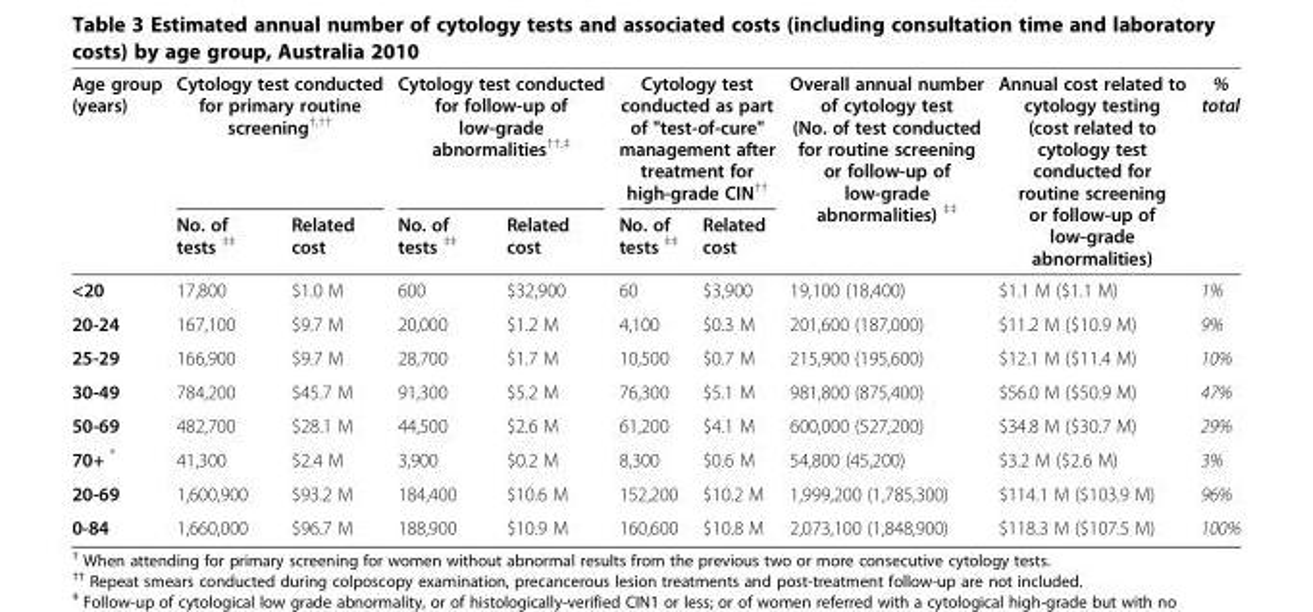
<table><thead><tr><td rowspan="2">Age group (years)</td><td colspan="2">Cytology test conducted for primary routine screening<sup>†,††</sup></td><td colspan="2">Cytology test conducted for follow-up of low-grade abnormalities<sup>††,‡</sup></td><td colspan="2">Cytology test conducted as part of &quot;test-of-cure&quot; management after treatment for high-grade CIN<sup>††</sup></td><td rowspan="2">Overall annual number of cytology test (No. of test conducted for routine screening or follow-up of low-grade abnormalities) <sup>‡‡</sup></td><td rowspan="2">Annual cost related to cytology testing (cost related to cytology test conducted for routine screening or follow-up of low-grade abnormalities)</td><td rowspan="2">% total</td></tr><tr><td>No. of tests <sup>‡‡</sup></td><td>Related cost</td><td>No. of tests <sup>‡‡</sup></td><td>Related cost</td><td>No. of tests <sup>‡‡</sup></td><td>Related cost</td></tr></thead><tbody><tr><td>&lt;20</td><td>17,800</td><td>$1.0 M</td><td>600</td><td>$32,900</td><td>60</td><td>$3,900</td><td>19,100 (18,400)</td><td>$1.1 M ($1.1 M)</td><td>1%</td></tr><tr><td>20-24</td><td>167,100</td><td>$9.7 M</td><td>20,000</td><td>$1.2 M</td><td>4,100</td><td>$0.3 M</td><td>201,600 (187,000)</td><td>$11.2 M ($10.9 M)</td><td>9%</td></tr><tr><td>25-29</td><td>166,900</td><td>$9.7 M</td><td>28,700</td><td>$1.7 M</td><td>10,500</td><td>$0.7 M</td><td>215,900 (195,600)</td><td>$12.1 M ($11.4 M)</td><td>10%</td></tr><tr><td>30-49</td><td>784,200</td><td>$45.7 M</td><td>91,300</td><td>$5.2 M</td><td>76,300</td><td>$5.1 M</td><td>981,800 (875,400)</td><td>$56.0 M ($50.9 M)</td><td>47%</td></tr><tr><td>50-69</td><td>482,700</td><td>$28.1 M</td><td>44,500</td><td>$2.6 M</td><td>61,200</td><td>$4.1 M</td><td>600,000 (527,200)</td><td>$34.8 M ($30.7 M)</td><td>29%</td></tr><tr><td>70+ *</td><td>41,300</td><td>$2.4 M</td><td>3,900</td><td>$0.2 M</td><td>8,300</td><td>$0.6 M</td><td>54,800 (45,200)</td><td>$3.2 M ($2.6 M)</td><td>3%</td></tr><tr><td>20-69</td><td>1,600,900</td><td>$93.2 M</td><td>184,400</td><td>$10.6 M</td><td>152,200</td><td>$10.2 M</td><td>1,999,200 (1,785,300)</td><td>$114.1 M ($103.9 M)</td><td>96%</td></tr><tr><td>0-84</td><td>1,660,000</td><td>$96.7 M</td><td>188,900</td><td>$10.9 M</td><td>160,600</td><td>$10.8 M</td><td>2,073,100 (1,848,900)</td><td>$118.3 M ($107.5 M)</td><td>100%</td></tr></tbody></table>